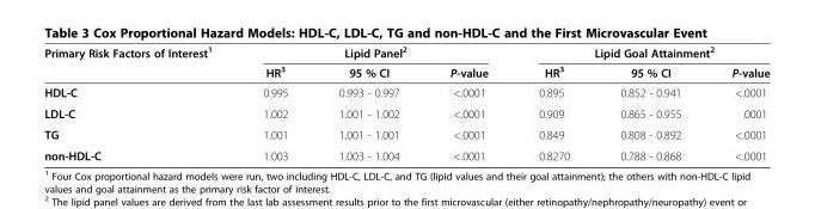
<table><thead><tr><td rowspan="2">Primary Risk Factors of Interest<sup>1</sup></td><td colspan="3">Lipid Panel<sup>2</sup></td><td colspan="3">Lipid Goal Attainment<sup>2</sup></td></tr><tr><td>HR<sup>3</sup></td><td>95 % CI</td><td>P-value</td><td>HR<sup>3</sup></td><td>95 % CI</td><td>P-value</td></tr></thead><tbody><tr><td>HDL-C</td><td>0.995</td><td>0.993 - 0.997</td><td>&lt;.0001</td><td>0.895</td><td>0.852 - 0.941</td><td>&lt;.0001</td></tr><tr><td>LDL-C</td><td>1.002</td><td>1.001 - 1.002</td><td>&lt;.0001</td><td>0.909</td><td>0.865 - 0.955</td><td>.0001</td></tr><tr><td>TG</td><td>1.001</td><td>1.001 - 1.001</td><td>&lt;.0001</td><td>0.849</td><td>0.808 - 0.892</td><td>&lt;.0001</td></tr><tr><td>non-HDL-C</td><td>1.003</td><td>1.003 - 1.004</td><td>&lt;.0001</td><td>0.8270</td><td>0.788 - 0.868</td><td>&lt;.0001</td></tr></tbody></table>